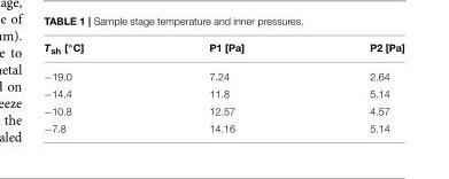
<table><thead><tr><td>Tsh [◦C]</td><td>P1 [Pa]</td><td>P2 [Pa]</td></tr></thead><tbody><tr><td>−19.0</td><td>7.24</td><td>2.64</td></tr><tr><td>−14.4</td><td>11.8</td><td>5.14</td></tr><tr><td>−10.8</td><td>12.57</td><td>4.57</td></tr><tr><td>−7.8</td><td>14.16</td><td>5.14</td></tr></tbody></table>